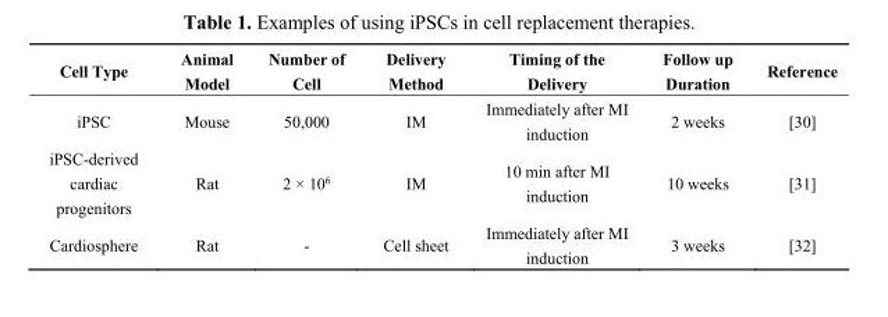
<table><thead><tr><td>Cell Type</td><td>Animal Model</td><td>Number of Cell</td><td>Delivery Method</td><td>Timing of the Delivery</td><td>Follow up Duration</td><td>Reference</td></tr></thead><tbody><tr><td>iPSC</td><td>Mouse</td><td>50,000</td><td>IM</td><td>Immediately after MI induction</td><td>2 weeks</td><td>[30]</td></tr><tr><td>iPSC-derived cardiac progenitors</td><td>Rat</td><td>2 × 10<sup>6</sup></td><td>IM</td><td>10 min after MI induction</td><td>10 weeks</td><td>[31]</td></tr><tr><td>Cardiosphere</td><td>Rat</td><td>-</td><td>Cell sheet</td><td>Immediately after MI induction</td><td>3 weeks</td><td>[32]</td></tr></tbody></table>